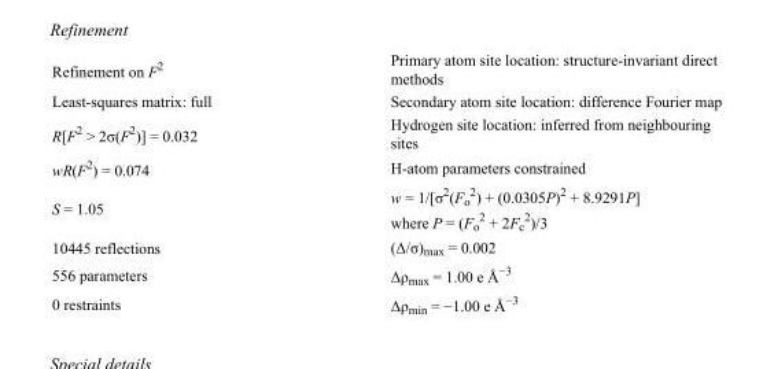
<table><tbody><tr><td>Refinement on F<sup>2</sup></td><td>Primary atom site location: structure-invariant direct methods</td></tr><tr><td>Least-squares matrix: full</td><td>Secondary atom site location: difference Fourier map</td></tr><tr><td>R[F<sup>2</sup> &gt; 2σ(F<sup>2</sup>)] = 0.032</td><td>Hydrogen site location: inferred from neighbouring sites</td></tr><tr><td>wR(F<sup>2</sup>) = 0.074</td><td>H-atom parameters constrained</td></tr><tr><td>S = 1.05</td><td>w = 1/[σ<sup>2</sup>(F<sub>o</sub> <sup>2</sup>) + (0.0305P)<sup>2</sup> + 8.9291P] where P = (F<sub>o</sub> <sup>2</sup> + 2F<sub>c</sub> <sup>2</sup>)/3</td></tr><tr><td>10445 reflections</td><td>(Δ/σ)<sub>max</sub> = 0.002</td></tr><tr><td>556 parameters</td><td>Δρ<sub>max</sub> = 1.00 e Å<sup>−3</sup></td></tr><tr><td>0 restraints</td><td>Δρ<sub>min</sub> = −1.00 e Å<sup>−3</sup></td></tr></tbody></table>